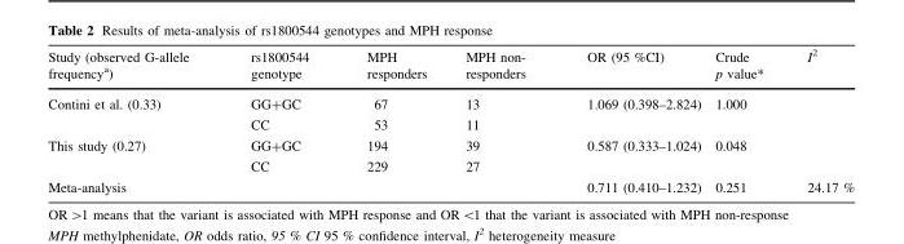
<table><thead><tr><td>Study (observed G-allele frequency<sup>a</sup>)</td><td>rs1800544 genotype</td><td>MPH responders</td><td>MPH non- responders</td><td>OR (95 %CI)</td><td>Crude p value*</td><td>I<sup>2</sup></td></tr></thead><tbody><tr><td rowspan="2">Contini et al. (0.33)</td><td>GG+GC</td><td>67</td><td>13</td><td rowspan="2">1.069 (0.398–2.824)</td><td rowspan="2">1.000</td><td rowspan="2"></td></tr><tr><td>CC</td><td>53</td><td>11</td></tr><tr><td rowspan="2">This study (0.27)</td><td>GG+GC</td><td>194</td><td>39</td><td rowspan="2">0.587 (0.333–1.024)</td><td rowspan="2">0.048</td><td rowspan="2"></td></tr><tr><td>CC</td><td>229</td><td>27</td></tr><tr><td>Meta-analysis</td><td></td><td></td><td></td><td>0.711 (0.410–1.232)</td><td>0.251</td><td>24.17 %</td></tr></tbody></table>